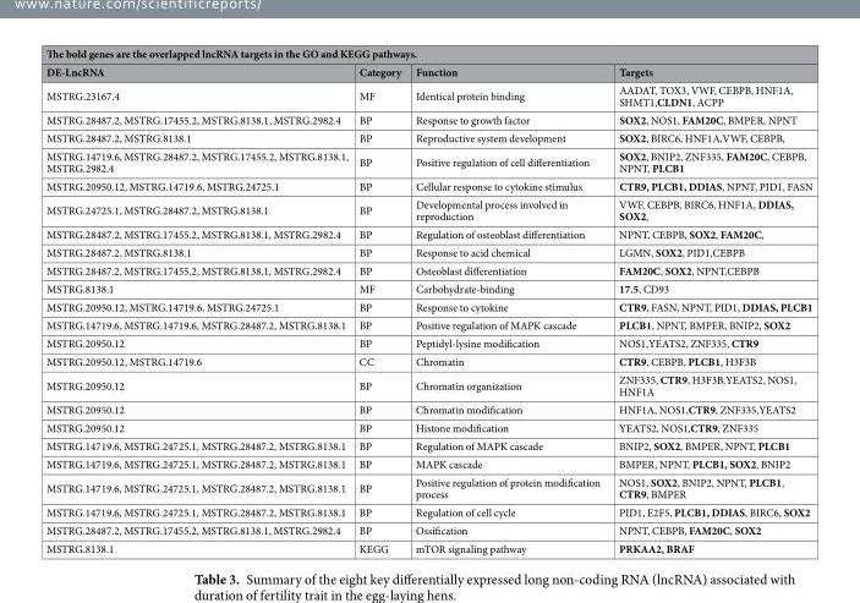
<table><thead><tr><td colspan="4">The bold genes are the overlapped lncRNA targets in the GO and KEGG pathways.</td></tr><tr><td>DE-LncRNA</td><td>Category</td><td>Function</td><td>Targets</td></tr></thead><tbody><tr><td>MSTRG.23167.4</td><td>MF</td><td>Identical protein binding</td><td>AADAT, TOX3, VWF, CEBPB, HNF1A, SHMT1,CLDN1, ACPP</td></tr><tr><td>MSTRG.28487.2, MSTRG.17455.2, MSTRG.8138.1, MSTRG.2982.4</td><td>BP</td><td>Response to growth factor</td><td>SOX2, NOS1, FAM20C, BMPER, NPNT</td></tr><tr><td>MSTRG.28487.2, MSTRG.8138.1</td><td>BP</td><td>Reproductive system development</td><td>SOX2, BIRC6, HNF1A,VWF, CEBPB,</td></tr><tr><td>MSTRG.14719.6, MSTRG.28487.2, MSTRG.17455.2, MSTRG.8138.1, MSTRG.2982.4</td><td>BP</td><td>Positive regulation of cell differentiation</td><td>SOX2, BNIP2, ZNF335, FAM20C, CEBPB, NPNT, PLCB1</td></tr><tr><td>MSTRG.20950.12, MSTRG.14719.6, MSTRG.24725.1</td><td>BP</td><td>Cellular response to cytokine stimulus</td><td>CTR9, PLCB1, DDIAS, NPNT, PID1, FASN</td></tr><tr><td>MSTRG.24725.1, MSTRG.28487.2, MSTRG.8138.1</td><td>BP</td><td>Developmental process involved in reproduction</td><td>VWF, CEBPB, BIRC6, HNF1A, DDIAS, SOX2,</td></tr><tr><td>MSTRG.28487.2, MSTRG.17455.2, MSTRG.8138.1, MSTRG.2982.4</td><td>BP</td><td>Regulation of osteoblast differentiation</td><td>NPNT, CEBPB, SOX2, FAM20C,</td></tr><tr><td>MSTRG.28487.2, MSTRG.8138.1</td><td>BP</td><td>Response to acid chemical</td><td>LGMN, SOX2, PID1,CEBPB</td></tr><tr><td>MSTRG.28487.2, MSTRG.17455.2, MSTRG.8138.1, MSTRG.2982.4</td><td>BP</td><td>Osteoblast differentiation</td><td>FAM20C, SOX2, NPNT,CEBPB</td></tr><tr><td>MSTRG.8138.1</td><td>MF</td><td>Carbohydrate-binding</td><td>17.5, CD93</td></tr><tr><td>MSTRG.20950.12, MSTRG.14719.6, MSTRG.24725.1</td><td>BP</td><td>Response to cytokine</td><td>CTR9, FASN, NPNT, PID1, DDIAS, PLCB1</td></tr><tr><td>MSTRG.14719.6, MSTRG.14719.6, MSTRG.28487.2, MSTRG.8138.1</td><td>BP</td><td>Positive regulation of MAPK cascade</td><td>PLCB1, NPNT, BMPER, BNIP2, SOX2</td></tr><tr><td>MSTRG.20950.12</td><td>BP</td><td>Peptidyl-lysine modification</td><td>NOS1,YEATS2, ZNF335, CTR9</td></tr><tr><td>MSTRG.20950.12, MSTRG.14719.6</td><td>CC</td><td>Chromatin</td><td>CTR9, CEBPB, PLCB1, H3F3B</td></tr><tr><td>MSTRG.20950.12</td><td>BP</td><td>Chromatin organization</td><td>ZNF335, CTR9, H3F3B,YEATS2, NOS1, HNF1A</td></tr><tr><td>MSTRG.20950.12</td><td>BP</td><td>Chromatin modification</td><td>HNF1A, NOS1,CTR9, ZNF335,YEATS2</td></tr><tr><td>MSTRG.20950.12</td><td>BP</td><td>Histone modification</td><td>YEATS2, NOS1,CTR9, ZNF335</td></tr><tr><td>MSTRG.14719.6, MSTRG.24725.1, MSTRG.28487.2, MSTRG.8138.1</td><td>BP</td><td>Regulation of MAPK cascade</td><td>BNIP2, SOX2, BMPER, NPNT, PLCB1</td></tr><tr><td>MSTRG.14719.6, MSTRG.24725.1, MSTRG.28487.2, MSTRG.8138.1</td><td>BP</td><td>MAPK cascade</td><td>BMPER, NPNT, PLCB1, SOX2, BNIP2</td></tr><tr><td>MSTRG.14719.6, MSTRG.24725.1, MSTRG.28487.2, MSTRG.8138.1</td><td>BP</td><td>Positive regulation of protein modification process</td><td>NOS1, SOX2, BNIP2, NPNT, PLCB1, CTR9, BMPER</td></tr><tr><td>MSTRG.14719.6, MSTRG.24725.1, MSTRG.28487.2, MSTRG.8138.1</td><td>BP</td><td>Regulation of cell cycle</td><td>PID1, E2F5, PLCB1, DDIAS, BIRC6, SOX2</td></tr><tr><td>MSTRG.28487.2, MSTRG.17455.2, MSTRG.8138.1, MSTRG.2982.4</td><td>BP</td><td>Ossification</td><td>NPNT, CEBPB, FAM20C, SOX2</td></tr><tr><td>MSTRG.8138.1</td><td>KEGG</td><td>mTOR signaling pathway</td><td>PRKAA2, BRAF</td></tr></tbody></table>